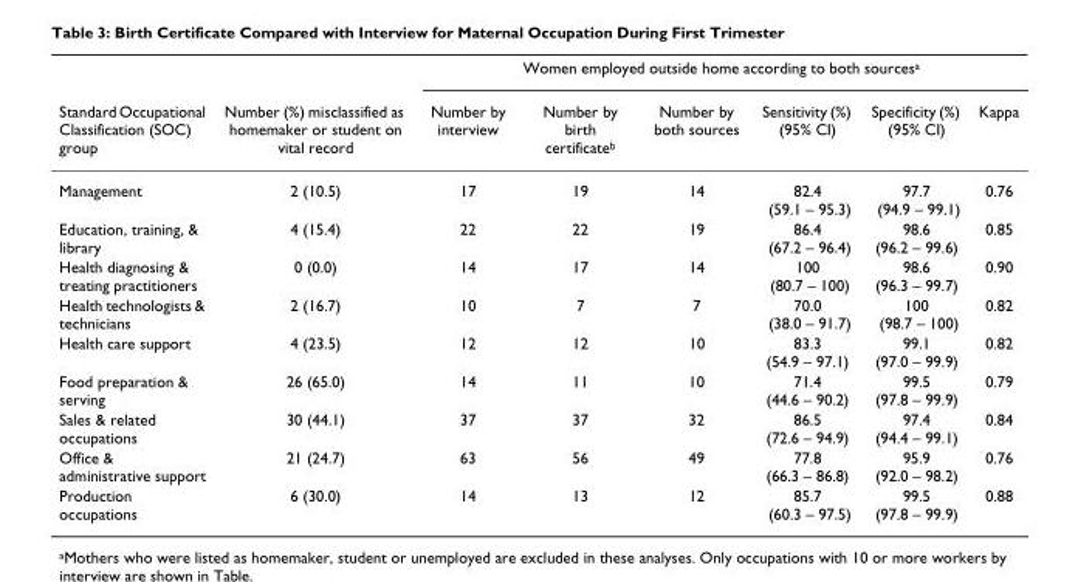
<table><thead><tr><td rowspan="2">Standard Occupational Classification (SOC) group</td><td rowspan="2">Number (%) misclassified as homemaker or student on vital record</td><td colspan="6">Women employed outside home according to both sources<sup>a</sup></td></tr><tr><td>Number by interview</td><td>Number by birth certificate<sup>b</sup></td><td>Number by both sources</td><td>Sensitivity (%) (95% CI)</td><td>Specificity (%) (95% CI)</td><td>Kappa</td></tr></thead><tbody><tr><td>Management</td><td>2 (10.5)</td><td>17</td><td>19</td><td>14</td><td>82.4 (59.1 – 95.3)</td><td>97.7 (94.9 – 99.1)</td><td>0.76</td></tr><tr><td>Education, training, &amp; library</td><td>4 (15.4)</td><td>22</td><td>22</td><td>19</td><td>86.4 (67.2 – 96.4)</td><td>98.6 (96.2 – 99.6)</td><td>0.85</td></tr><tr><td>Health diagnosing &amp; treating practitioners</td><td>0 (0.0)</td><td>14</td><td>17</td><td>14</td><td>100 (80.7 – 100)</td><td>98.6 (96.3 – 99.7)</td><td>0.90</td></tr><tr><td>Health technologists &amp; technicians</td><td>2 (16.7)</td><td>10</td><td>7</td><td>7</td><td>70.0 (38.0 – 91.7)</td><td>100 (98.7 – 100)</td><td>0.82</td></tr><tr><td>Health care support</td><td>4 (23.5)</td><td>12</td><td>12</td><td>10</td><td>83.3 (54.9 – 97.1)</td><td>99.1 (97.0 – 99.9)</td><td>0.82</td></tr><tr><td>Food preparation &amp; serving</td><td>26 (65.0)</td><td>14</td><td>11</td><td>10</td><td>71.4 (44.6 – 90.2)</td><td>99.5 (97.8 – 99.9)</td><td>0.79</td></tr><tr><td>Sales &amp; related occupations</td><td>30 (44.1)</td><td>37</td><td>37</td><td>32</td><td>86.5 (72.6 – 94.9)</td><td>97.4 (94.4 – 99.1)</td><td>0.84</td></tr><tr><td>Office &amp; administrative support</td><td>21 (24.7)</td><td>63</td><td>56</td><td>49</td><td>77.8 (66.3 – 86.8)</td><td>95.9 (92.0 – 98.2)</td><td>0.76</td></tr><tr><td>Production occupations</td><td>6 (30.0)</td><td>14</td><td>13</td><td>12</td><td>85.7 (60.3 – 97.5)</td><td>99.5 (97.8 – 99.9)</td><td>0.88</td></tr></tbody></table>